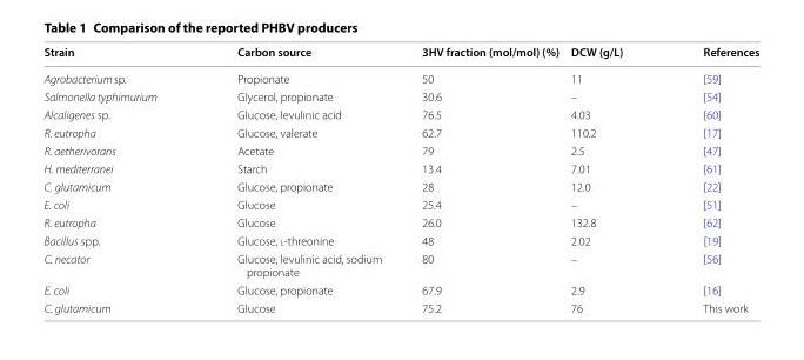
<table><thead><tr><td>Strain</td><td>Carbon source</td><td>3HV fraction (mol/mol) (%)</td><td>DCW (g/L)</td><td>References</td></tr></thead><tbody><tr><td>Agrobacterium sp.</td><td>Propionate</td><td>50</td><td>11</td><td>[59]</td></tr><tr><td>Salmonella typhimurium</td><td>Glycerol, propionate</td><td>30.6</td><td>–</td><td>[54]</td></tr><tr><td>Alcaligenes sp.</td><td>Glucose, levulinic acid</td><td>76.5</td><td>4.03</td><td>[60]</td></tr><tr><td>R. eutropha</td><td>Glucose, valerate</td><td>62.7</td><td>110.2</td><td>[17]</td></tr><tr><td>R. aetherivorans</td><td>Acetate</td><td>79</td><td>2.5</td><td>[47]</td></tr><tr><td>H. mediterranei</td><td>Starch</td><td>13.4</td><td>7.01</td><td>[61]</td></tr><tr><td>C. glutamicum</td><td>Glucose, propionate</td><td>28</td><td>12.0</td><td>[22]</td></tr><tr><td>E. coli</td><td>Glucose</td><td>25.4</td><td>–</td><td>[51]</td></tr><tr><td>R. eutropha</td><td>Glucose</td><td>26.0</td><td>132.8</td><td>[62]</td></tr><tr><td>Bacillus spp.</td><td>Glucose, l-threonine</td><td>48</td><td>2.02</td><td>[19]</td></tr><tr><td>C. necator</td><td>Glucose, levulinic acid, sodium propionate</td><td>80</td><td>–</td><td>[56]</td></tr><tr><td>E. coli</td><td>Glucose, propionate</td><td>67.9</td><td>2.9</td><td>[16]</td></tr><tr><td>C. glutamicum</td><td>Glucose</td><td>75.2</td><td>76</td><td>This work</td></tr></tbody></table>